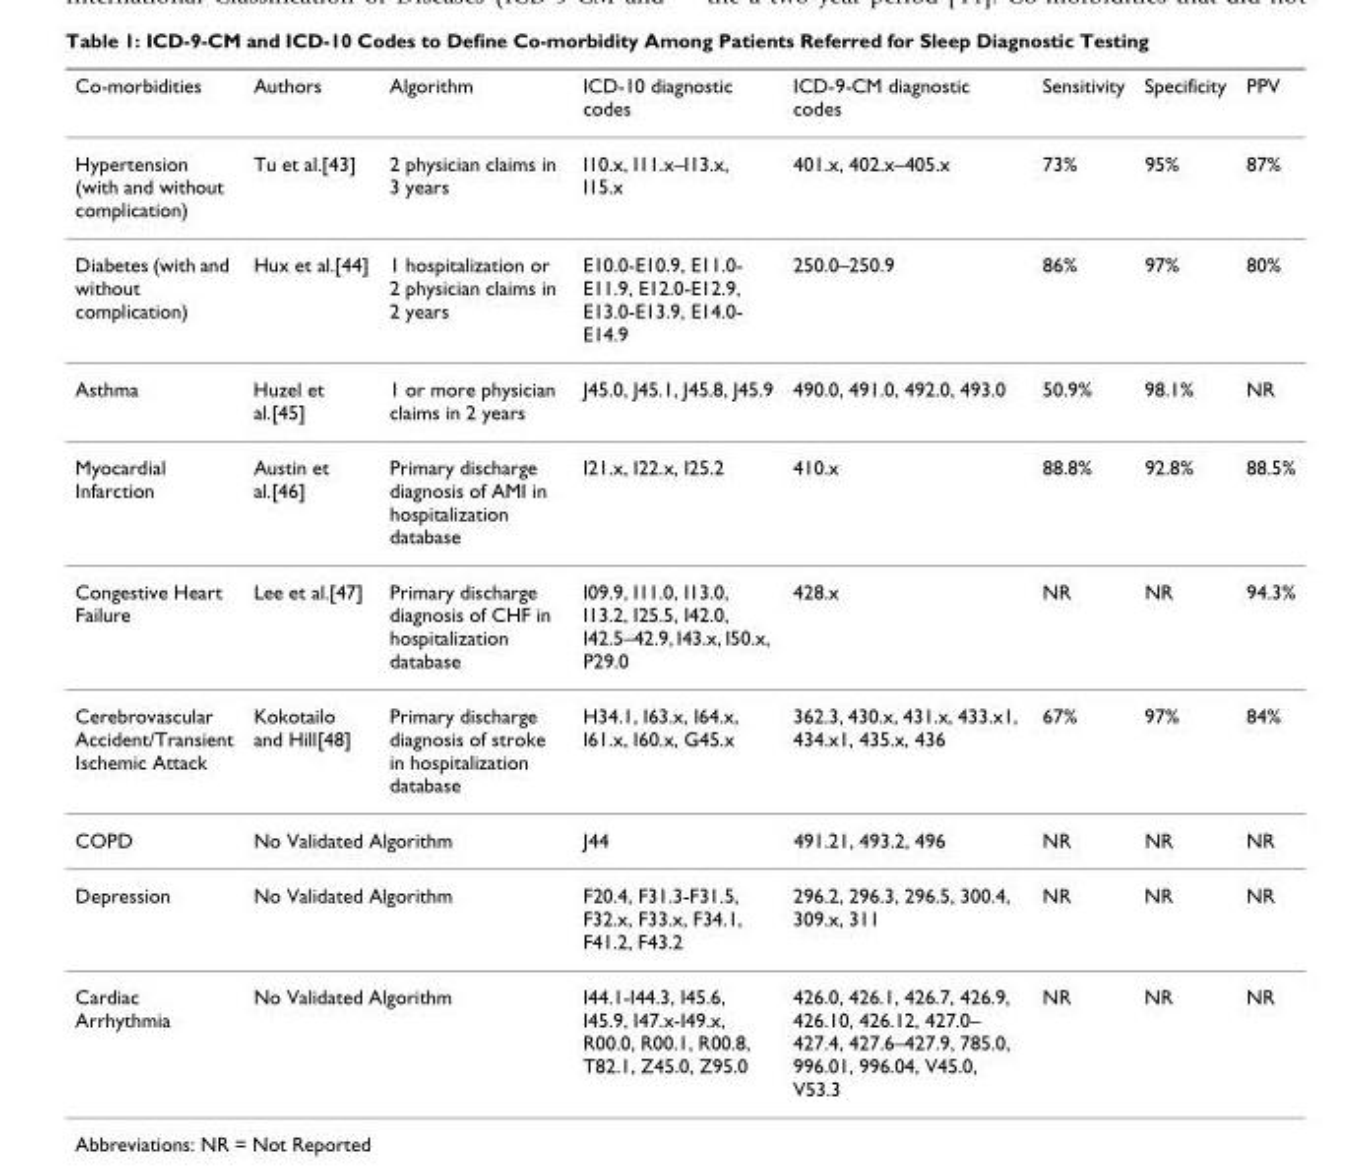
<table><thead><tr><td>Co-morbidities</td><td>Authors</td><td>Algorithm</td><td>ICD-10 diagnostic codes</td><td>ICD-9-CM diagnostic codes</td><td>Sensitivity</td><td>Specificity</td><td>PPV</td></tr></thead><tbody><tr><td>Hypertension (with and without complication)</td><td>Tu et al.[43]</td><td>2 physician claims in 3 years</td><td>I10.x, I11.x–I13.x, I15.x</td><td>401.x, 402.x–405.x</td><td>73%</td><td>95%</td><td>87%</td></tr><tr><td>Diabetes (with and without complication)</td><td>Hux et al.[44]</td><td>1 hospitalization or 2 physician claims in 2 years</td><td>E10.0-E10.9, E11.0- E11.9, E12.0-E12.9, E13.0-E13.9, E14.0- E14.9</td><td>250.0–250.9</td><td>86%</td><td>97%</td><td>80%</td></tr><tr><td>Asthma</td><td>Huzel et al.[45]</td><td>1 or more physician claims in 2 years</td><td>J45.0, J45.1, J45.8, J45.9</td><td>490.0, 491.0, 492.0, 493.0</td><td>50.9%</td><td>98.1%</td><td>NR</td></tr><tr><td>Myocardial Infarction</td><td>Austin et al.[46]</td><td>Primary discharge diagnosis of AMI in hospitalization database</td><td>I21.x, I22.x, I25.2</td><td>410.x</td><td>88.8%</td><td>92.8%</td><td>88.5%</td></tr><tr><td>Congestive Heart Failure</td><td>Lee et al.[47]</td><td>Primary discharge diagnosis of CHF in hospitalization database</td><td>I09.9, I11.0, I13.0, I13.2, I25.5, I42.0, I42.5–42.9, I43.x, I50.x, P29.0</td><td>428.x</td><td>NR</td><td>NR</td><td>94.3%</td></tr><tr><td>Cerebrovascular Accident/Transient Ischemic Attack</td><td>Kokotailo and Hill[48]</td><td>Primary discharge diagnosis of stroke in hospitalization database</td><td>H34.1, I63.x, I64.x, I61.x, I60.x, G45.x</td><td>362.3, 430.x, 431.x, 433.x1, 434.x1, 435.x, 436</td><td>67%</td><td>97%</td><td>84%</td></tr><tr><td>COPD</td><td colspan="2">No Validated Algorithm</td><td>J44</td><td>491.21, 493.2, 496</td><td>NR</td><td>NR</td><td>NR</td></tr><tr><td>Depression</td><td colspan="2">No Validated Algorithm</td><td>F20.4, F31.3-F31.5, F32.x, F33.x, F34.1, F41.2, F43.2</td><td>296.2, 296.3, 296.5, 300.4, 309.x, 311</td><td>NR</td><td>NR</td><td>NR</td></tr><tr><td>Cardiac Arrhythmia</td><td colspan="2">No Validated Algorithm</td><td>I44.1-I44.3, I45.6, I45.9, I47.x-I49.x, R00.0, R00.1, R00.8, T82.1, Z45.0, Z95.0</td><td>426.0, 426.1, 426.7, 426.9, 426.10, 426.12, 427.0– 427.4, 427.6–427.9, 785.0, 996.01, 996.04, V45.0, V53.3</td><td>NR</td><td>NR</td><td>NR</td></tr></tbody></table>